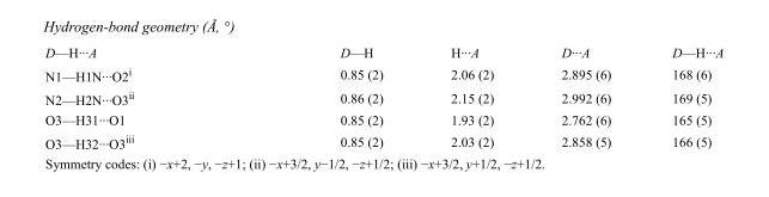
<table><tbody><tr><td>D—H···A</td><td>D—H</td><td>H···A</td><td>D···A</td><td>D—H···A</td></tr><tr><td>N1—H1N···O2<sup>i</sup></td><td>0.85 (2)</td><td>2.06 (2)</td><td>2.895 (6)</td><td>168 (6)</td></tr><tr><td>N2—H2N···O3<sup>ii</sup></td><td>0.86 (2)</td><td>2.15 (2)</td><td>2.992 (6)</td><td>169 (5)</td></tr><tr><td>O3—H31···O1</td><td>0.85 (2)</td><td>1.93 (2)</td><td>2.762 (6)</td><td>165 (5)</td></tr><tr><td>O3—H32···O3<sup>iii</sup></td><td>0.85 (2)</td><td>2.03 (2)</td><td>2.858 (5)</td><td>166 (5)</td></tr></tbody></table>